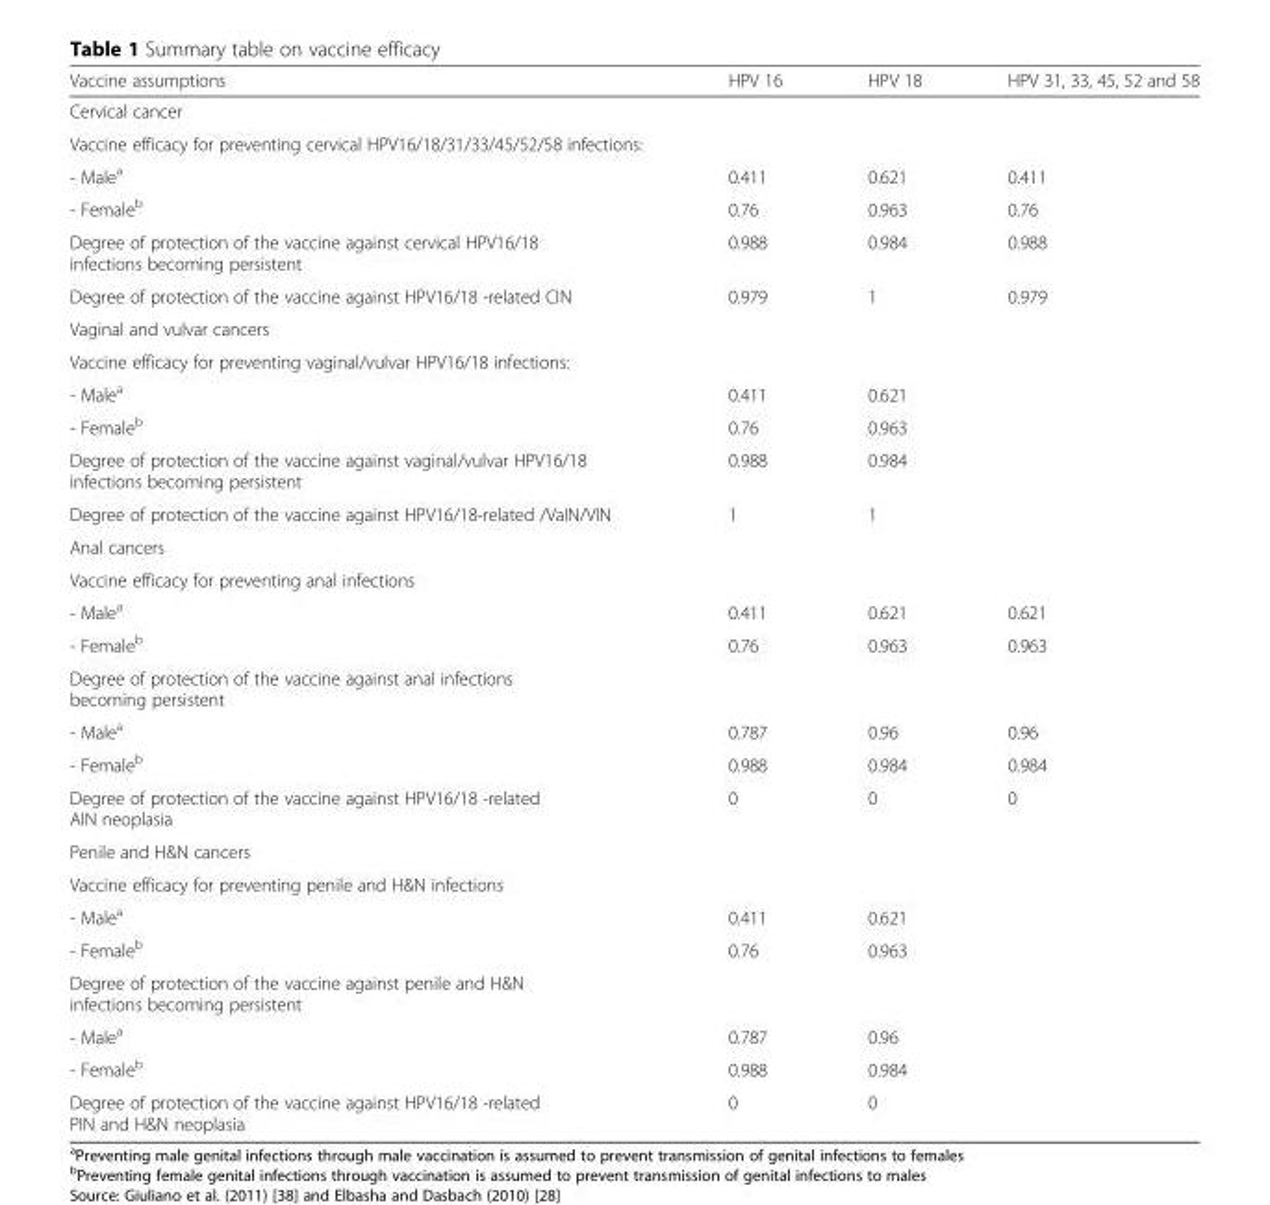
<table><thead><tr><td>Vaccine assumptions</td><td>HPV 16</td><td>HPV 18</td><td>HPV 31, 33, 45, 52 and 58</td></tr></thead><tbody><tr><td colspan="4">Cervical cancer</td></tr><tr><td colspan="4">Vaccine efficacy for preventing cervical HPV16/18/31/33/45/52/58 infections:</td></tr><tr><td>- Male<sup>a</sup></td><td>0.411</td><td>0.621</td><td>0.411</td></tr><tr><td>- Female<sup>b</sup></td><td>0.76</td><td>0.963</td><td>0.76</td></tr><tr><td>Degree of protection of the vaccine against cervical HPV16/18 infections becoming persistent</td><td>0.988</td><td>0.984</td><td>0.988</td></tr><tr><td>Degree of protection of the vaccine against HPV16/18 -related CIN</td><td>0.979</td><td>1</td><td>0.979</td></tr><tr><td colspan="4">Vaginal and vulvar cancers</td></tr><tr><td colspan="4">Vaccine efficacy for preventing vaginal/vulvar HPV16/18 infections:</td></tr><tr><td>- Male<sup>a</sup></td><td>0.411</td><td>0.621</td><td></td></tr><tr><td>- Female<sup>b</sup></td><td>0.76</td><td>0.963</td><td></td></tr><tr><td>Degree of protection of the vaccine against vaginal/vulvar HPV16/18 infections becoming persistent</td><td>0.988</td><td>0.984</td><td></td></tr><tr><td>Degree of protection of the vaccine against HPV16/18-related /VaIN/VIN</td><td>1</td><td>1</td><td></td></tr><tr><td colspan="4">Anal cancers</td></tr><tr><td colspan="4">Vaccine efficacy for preventing anal infections</td></tr><tr><td>- Male<sup>a</sup></td><td>0.411</td><td>0.621</td><td>0.621</td></tr><tr><td>- Female<sup>b</sup></td><td>0.76</td><td>0.963</td><td>0.963</td></tr><tr><td colspan="4">Degree of protection of the vaccine against anal infections becoming persistent</td></tr><tr><td>- Male<sup>a</sup></td><td>0.787</td><td>0.96</td><td>0.96</td></tr><tr><td>- Female<sup>b</sup></td><td>0.988</td><td>0.984</td><td>0.984</td></tr><tr><td>Degree of protection of the vaccine against HPV16/18 -related AIN neoplasia</td><td>0</td><td>0</td><td>0</td></tr><tr><td colspan="4">Penile and H&amp;N cancers</td></tr><tr><td colspan="4">Vaccine efficacy for preventing penile and H&amp;N infections</td></tr><tr><td>- Male<sup>a</sup></td><td>0.411</td><td>0.621</td><td></td></tr><tr><td>- Female<sup>b</sup></td><td>0.76</td><td>0.963</td><td></td></tr><tr><td colspan="4">Degree of protection of the vaccine against penile and H&amp;N infections becoming persistent</td></tr><tr><td>- Male<sup>a</sup></td><td>0.787</td><td>0.96</td><td></td></tr><tr><td>- Female<sup>b</sup></td><td>0.988</td><td>0.984</td><td></td></tr><tr><td>Degree of protection of the vaccine against HPV16/18 -related PIN and H&amp;N neoplasia</td><td>0</td><td>0</td><td></td></tr></tbody></table>